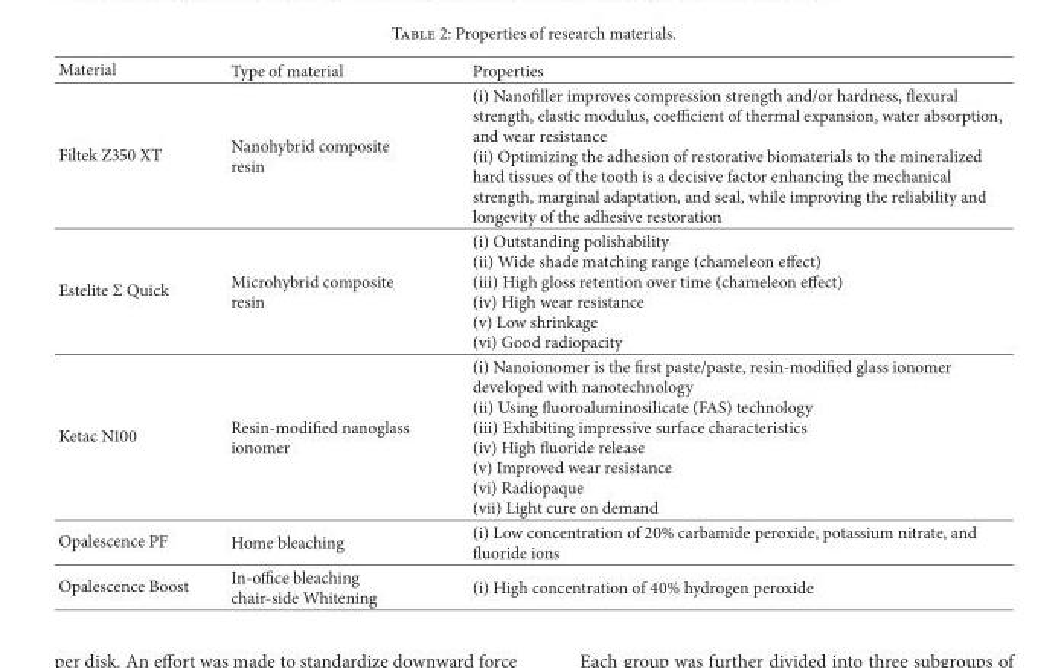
<table><thead><tr><td>Material</td><td>Type of material</td><td>Properties</td></tr></thead><tbody><tr><td>Filtek Z350 XT</td><td>Nanohybrid composite resin</td><td>(i) Nanofiller improves compression strength and/or hardness, flexural strength, elastic modulus, coefficient of thermal expansion, water absorption, and wear resistance (ii) Optimizing the adhesion of restorative biomaterials to the mineralized hard tissues of the tooth is a decisive factor enhancing the mechanical strength, marginal adaptation, and seal, while improving the reliability and longevity of the adhesive restoration</td></tr><tr><td>Estelite Σ Quick</td><td>Microhybrid composite resin</td><td>(i) Outstanding polishability (ii) Wide shade matching range (chameleon effect) (iii) High gloss retention over time (chameleon effect) (iv) High wear resistance (v) Low shrinkage (vi) Good radiopacity</td></tr><tr><td>Ketac N100</td><td>Resin-modified nanoglass ionomer</td><td>(i) Nanoionomer is the first paste/paste, resin-modified glass ionomer developed with nanotechnology (ii) Using fluoroaluminosilicate (FAS) technology (iii) Exhibiting impressive surface characteristics (iv) High fluoride release (v) Improved wear resistance (vi) Radiopaque (vii) Light cure on demand</td></tr><tr><td>Opalescence PF</td><td>Home bleaching</td><td>(i) Low concentration of 20% carbamide peroxide, potassium nitrate, and fluoride ions</td></tr><tr><td>Opalescence Boost</td><td>In-office bleaching chair-side Whitening</td><td>(i) High concentration of 40% hydrogen peroxide</td></tr></tbody></table>